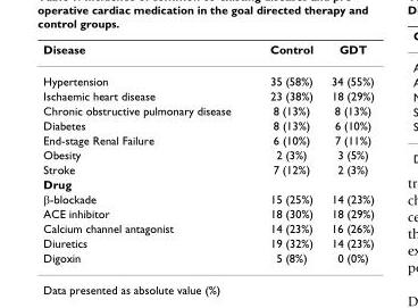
<table><thead><tr><td>Disease</td><td>Control</td><td>GDT</td></tr></thead><tbody><tr><td>Hypertension</td><td>35 (58%)</td><td>34 (55%)</td></tr><tr><td>Ischaemic heart disease</td><td>23 (38%)</td><td>18 (29%)</td></tr><tr><td>Chronic obstructive pulmonary disease</td><td>8 (13%)</td><td>8 (13%)</td></tr><tr><td>Diabetes</td><td>8 (13%)</td><td>6 (10%)</td></tr><tr><td>End-stage Renal Failure</td><td>6 (10%)</td><td>7 (11%)</td></tr><tr><td>Obesity</td><td>2 (3%)</td><td>3 (5%)</td></tr><tr><td>Stroke</td><td>7 (12%)</td><td>2 (3%)</td></tr><tr><td colspan="3">Drug</td></tr><tr><td>β-blockade</td><td>15 (25%)</td><td>14 (23%)</td></tr><tr><td>ACE inhibitor</td><td>18 (30%)</td><td>18 (29%)</td></tr><tr><td>Calcium channel antagonist</td><td>14 (23%)</td><td>16 (26%)</td></tr><tr><td>Diuretics</td><td>19 (32%)</td><td>14 (23%)</td></tr><tr><td>Digoxin</td><td>5 (8%)</td><td>0 (0%)</td></tr></tbody></table>